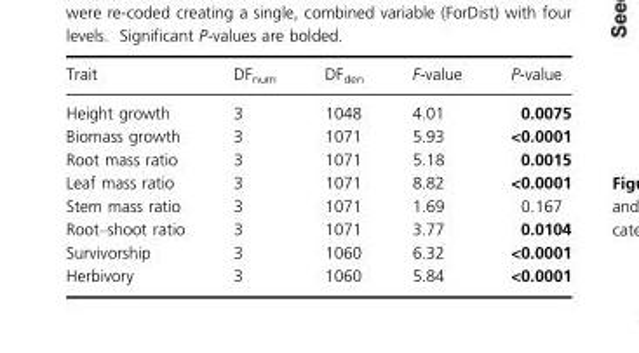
<table><thead><tr><td>Trait</td><td>DF<sub>num</sub></td><td>DF<sub>den</sub></td><td>F-value</td><td>P-value</td></tr></thead><tbody><tr><td>Height growth</td><td>3</td><td>1048</td><td>4.01</td><td>0.0075</td></tr><tr><td>Biomass growth</td><td>3</td><td>1071</td><td>5.93</td><td>&lt;0.0001</td></tr><tr><td>Root mass ratio</td><td>3</td><td>1071</td><td>5.18</td><td>0.0015</td></tr><tr><td>Leaf mass ratio</td><td>3</td><td>1071</td><td>8.82</td><td>&lt;0.0001</td></tr><tr><td>Stem mass ratio</td><td>3</td><td>1071</td><td>1.69</td><td>0.167</td></tr><tr><td>Root–shoot ratio</td><td>3</td><td>1071</td><td>3.77</td><td>0.0104</td></tr><tr><td>Survivorship</td><td>3</td><td>1060</td><td>6.32</td><td>&lt;0.0001</td></tr><tr><td>Herbivory</td><td>3</td><td>1060</td><td>5.84</td><td>&lt;0.0001</td></tr></tbody></table>